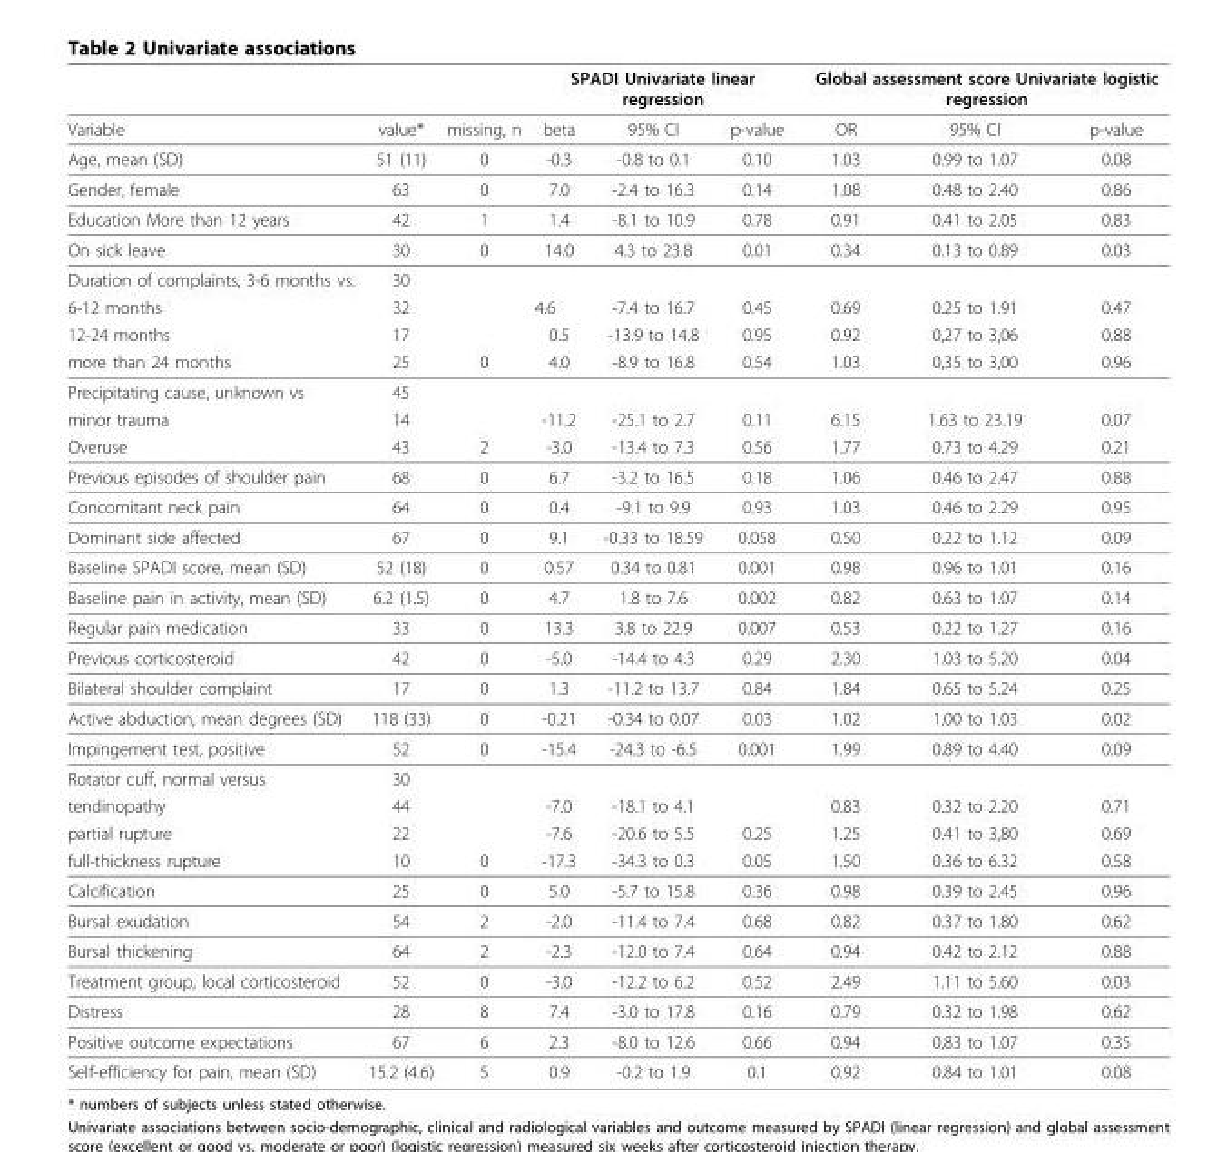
<table><thead><tr><td rowspan="2">Variable</td><td rowspan="2">value*</td><td rowspan="2">missing, n</td><td colspan="3">SPADI Univariate linear regression</td><td colspan="3">Global assessment score Univariate logistic regression</td></tr><tr><td>beta</td><td>95% CI</td><td>p-value</td><td>OR</td><td>95% CI</td><td>p-value</td></tr></thead><tbody><tr><td>Age, mean (SD)</td><td>51 (11)</td><td>0</td><td>-0.3</td><td>-0.8 to 0.1</td><td>0.10</td><td>1.03</td><td>0.99 to 1.07</td><td>0.08</td></tr><tr><td>Gender, female</td><td>63</td><td>0</td><td>7.0</td><td>-2.4 to 16.3</td><td>0.14</td><td>1.08</td><td>0.48 to 2.40</td><td>0.86</td></tr><tr><td>Education More than 12 years</td><td>42</td><td>1</td><td>1.4</td><td>-8.1 to 10.9</td><td>0.78</td><td>0.91</td><td>0.41 to 2.05</td><td>0.83</td></tr><tr><td>On sick leave</td><td>30</td><td>0</td><td>14.0</td><td>4.3 to 23.8</td><td>0.01</td><td>0.34</td><td>0.13 to 0.89</td><td>0.03</td></tr><tr><td>Duration of complaints, 3-6 months vs.</td><td>30</td><td></td><td></td><td></td><td></td><td></td><td></td><td></td></tr><tr><td>6-12 months</td><td>32</td><td></td><td>4.6</td><td>-7.4 to 16.7</td><td>0.45</td><td>0.69</td><td>0.25 to 1.91</td><td>0.47</td></tr><tr><td>12-24 months</td><td>17</td><td></td><td>0.5</td><td>-13.9 to 14.8</td><td>0.95</td><td>0.92</td><td>0,27 to 3,06</td><td>0.88</td></tr><tr><td>more than 24 months</td><td>25</td><td>0</td><td>4.0</td><td>-8.9 to 16.8</td><td>0.54</td><td>1.03</td><td>0,35 to 3,00</td><td>0.96</td></tr><tr><td>Precipitating cause, unknown vs</td><td>45</td><td></td><td></td><td></td><td></td><td></td><td></td><td></td></tr><tr><td>minor trauma</td><td>14</td><td></td><td>-11.2</td><td>-25.1 to 2.7</td><td>0.11</td><td>6.15</td><td>1.63 to 23.19</td><td>0.07</td></tr><tr><td>Overuse</td><td>43</td><td>2</td><td>-3.0</td><td>-13.4 to 7.3</td><td>0.56</td><td>1.77</td><td>0.73 to 4.29</td><td>0.21</td></tr><tr><td>Previous episodes of shoulder pain</td><td>68</td><td>0</td><td>6.7</td><td>-3.2 to 16.5</td><td>0.18</td><td>1.06</td><td>0.46 to 2.47</td><td>0.88</td></tr><tr><td>Concomitant neck pain</td><td>64</td><td>0</td><td>0.4</td><td>-9.1 to 9.9</td><td>0.93</td><td>1.03</td><td>0.46 to 2.29</td><td>0.95</td></tr><tr><td>Dominant side affected</td><td>67</td><td>0</td><td>9.1</td><td>-0.33 to 18.59</td><td>0.058</td><td>0.50</td><td>0.22 to 1.12</td><td>0.09</td></tr><tr><td>Baseline SPADI score, mean (SD)</td><td>52 (18)</td><td>0</td><td>0.57</td><td>0.34 to 0.81</td><td>0.001</td><td>0.98</td><td>0.96 to 1.01</td><td>0.16</td></tr><tr><td>Baseline pain in activity, mean (SD)</td><td>6.2 (1.5)</td><td>0</td><td>4.7</td><td>1.8 to 7.6</td><td>0.002</td><td>0.82</td><td>0.63 to 1.07</td><td>0.14</td></tr><tr><td>Regular pain medication</td><td>33</td><td>0</td><td>13.3</td><td>3.8 to 22.9</td><td>0.007</td><td>0.53</td><td>0.22 to 1.27</td><td>0.16</td></tr><tr><td>Previous corticosteroid</td><td>42</td><td>0</td><td>-5.0</td><td>-14.4 to 4.3</td><td>0.29</td><td>2.30</td><td>1.03 to 5.20</td><td>0.04</td></tr><tr><td>Bilateral shoulder complaint</td><td>17</td><td>0</td><td>1.3</td><td>-11.2 to 13.7</td><td>0.84</td><td>1.84</td><td>0.65 to 5.24</td><td>0.25</td></tr><tr><td>Active abduction, mean degrees (SD)</td><td>118 (33)</td><td>0</td><td>-0.21</td><td>-0.34 to 0.07</td><td>0.03</td><td>1.02</td><td>1.00 to 1.03</td><td>0.02</td></tr><tr><td>Impingement test, positive</td><td>52</td><td>0</td><td>-15.4</td><td>-24.3 to -6.5</td><td>0.001</td><td>1.99</td><td>0.89 to 4.40</td><td>0.09</td></tr><tr><td>Rotator cuff, normal versus</td><td>30</td><td></td><td></td><td></td><td></td><td></td><td></td><td></td></tr><tr><td>tendinopathy</td><td>44</td><td></td><td>-7.0</td><td>-18.1 to 4.1</td><td></td><td>0.83</td><td>0.32 to 2.20</td><td>0.71</td></tr><tr><td>partial rupture</td><td>22</td><td></td><td>-7.6</td><td>-20.6 to 5.5</td><td>0.25</td><td>1.25</td><td>0.41 to 3,80</td><td>0.69</td></tr><tr><td>full-thickness rupture</td><td>10</td><td>0</td><td>-17.3</td><td>-34.3 to 0.3</td><td>0.05</td><td>1.50</td><td>0.36 to 6.32</td><td>0.58</td></tr><tr><td>Calcification</td><td>25</td><td>0</td><td>5.0</td><td>-5.7 to 15.8</td><td>0.36</td><td>0.98</td><td>0.39 to 2.45</td><td>0.96</td></tr><tr><td>Bursal exudation</td><td>54</td><td>2</td><td>-2.0</td><td>-11.4 to 7.4</td><td>0.68</td><td>0.82</td><td>0.37 to 1.80</td><td>0.62</td></tr><tr><td>Bursal thickening</td><td>64</td><td>2</td><td>-2.3</td><td>-12.0 to 7.4</td><td>0.64</td><td>0.94</td><td>0.42 to 2.12</td><td>0.88</td></tr><tr><td>Treatment group, local corticosteroid</td><td>52</td><td>0</td><td>-3.0</td><td>-12.2 to 6.2</td><td>0.52</td><td>2.49</td><td>1.11 to 5.60</td><td>0.03</td></tr><tr><td>Distress</td><td>28</td><td>8</td><td>7.4</td><td>-3.0 to 17.8</td><td>0.16</td><td>0.79</td><td>0.32 to 1.98</td><td>0.62</td></tr><tr><td>Positive outcome expectations</td><td>67</td><td>6</td><td>2.3</td><td>-8.0 to 12.6</td><td>0.66</td><td>0.94</td><td>0,83 to 1.07</td><td>0.35</td></tr><tr><td>Self-efficiency for pain, mean (SD)</td><td>15.2 (4.6)</td><td>5</td><td>0.9</td><td>-0.2 to 1.9</td><td>0.1</td><td>0.92</td><td>0.84 to 1.01</td><td>0.08</td></tr></tbody></table>